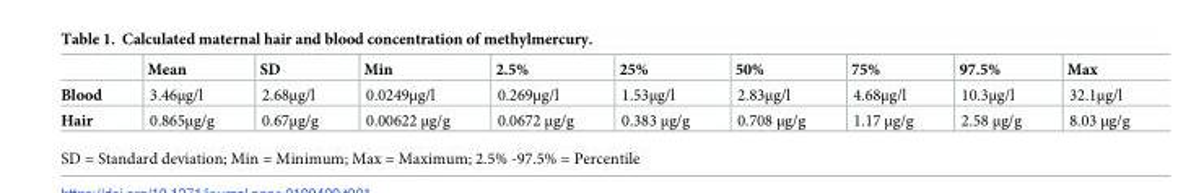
<table><thead><tr><td></td><td>Mean</td><td>SD</td><td>Min</td><td>2.5%</td><td>25%</td><td>50%</td><td>75%</td><td>97.5%</td><td>Max</td></tr></thead><tbody><tr><td>Blood</td><td>3.46μg/l</td><td>2.68μg/l</td><td>0.0249μg/l</td><td>0.269μg/l</td><td>1.53μg/l</td><td>2.83μg/l</td><td>4.68μg/l</td><td>10.3μg/l</td><td>32.1μg/l</td></tr><tr><td>Hair</td><td>0.865μg/g</td><td>0.67μg/g</td><td>0.00622 μg/g</td><td>0.0672 μg/g</td><td>0.383 μg/g</td><td>0.708 μg/g</td><td>1.17 μg/g</td><td>2.58 μg/g</td><td>8.03 μg/g</td></tr></tbody></table>